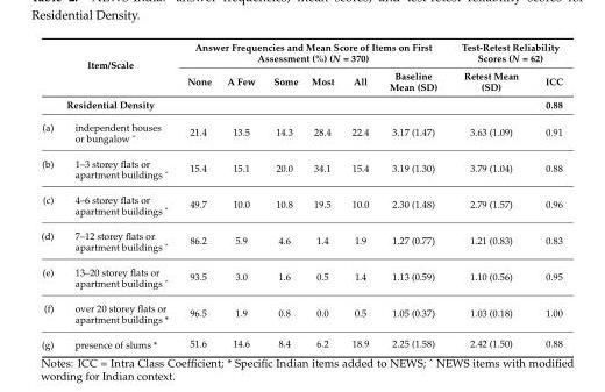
<table><thead><tr><td rowspan="2">Item/Scale</td><td colspan="6">Answer Frequencies and Mean Score of Items on First Assessment (%) (N = 370)</td><td colspan="2">Test-Retest Reliability Scores (N = 62)</td></tr><tr><td>None</td><td>A Few</td><td>Some</td><td>Most</td><td>All</td><td>Baseline Mean (SD)</td><td>Retest Mean (SD)</td><td>ICC</td></tr></thead><tbody><tr><td>Residential Density</td><td></td><td></td><td></td><td></td><td></td><td></td><td></td><td>0.88</td></tr><tr><td>(a) independent houses or bungalow ˆ</td><td>21.4</td><td>13.5</td><td>14.3</td><td>28.4</td><td>22.4</td><td>3.17 (1.47)</td><td>3.63 (1.09)</td><td>0.91</td></tr><tr><td>(b) 1–3 storey flats or apartment buildings ˆ</td><td>15.4</td><td>15.1</td><td>20.0</td><td>34.1</td><td>15.4</td><td>3.19 (1.30)</td><td>3.79 (1.04)</td><td>0.88</td></tr><tr><td>(c) 4–6 storey flats or apartment buildings ˆ</td><td>49.7</td><td>10.0</td><td>10.8</td><td>19.5</td><td>10.0</td><td>2.30 (1.48)</td><td>2.79 (1.57)</td><td>0.96</td></tr><tr><td>(d) 7–12 storey flats or apartment buildings ˆ</td><td>86.2</td><td>5.9</td><td>4.6</td><td>1.4</td><td>1.9</td><td>1.27 (0.77)</td><td>1.21 (0.83)</td><td>0.83</td></tr><tr><td>(e) 13–20 storey flats or apartment buildings ˆ</td><td>93.5</td><td>3.0</td><td>1.6</td><td>0.5</td><td>1.4</td><td>1.13 (0.59)</td><td>1.10 (0.56)</td><td>0.95</td></tr><tr><td>(f) over 20 storey flats or apartment buildings *</td><td>96.5</td><td>1.9</td><td>0.8</td><td>0.0</td><td>0.5</td><td>1.05 (0.37)</td><td>1.03 (0.18)</td><td>1.00</td></tr><tr><td>(g) presence of slums *</td><td>51.6</td><td>14.6</td><td>8.4</td><td>6.2</td><td>18.9</td><td>2.25 (1.58)</td><td>2.42 (1.50)</td><td>0.88</td></tr></tbody></table>